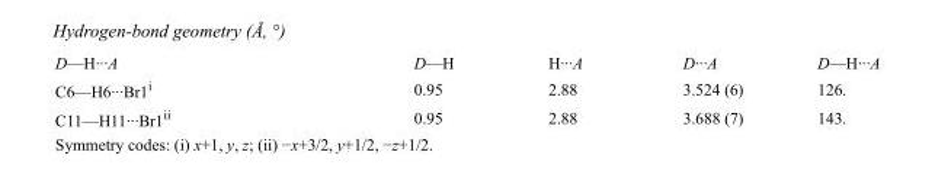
<table><tbody><tr><td>D—H···A</td><td>D—H</td><td>H···A</td><td>D···A</td><td>D—H···A</td></tr><tr><td>C6—H6···Br1<sup>i</sup></td><td>0.95</td><td>2.88</td><td>3.524 (6)</td><td>126.</td></tr><tr><td>C11—H11···Br1<sup>ii</sup></td><td>0.95</td><td>2.88</td><td>3.688 (7)</td><td>143.</td></tr></tbody></table>